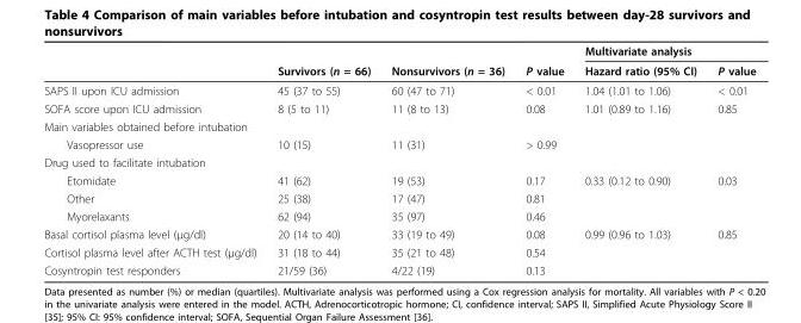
<table><thead><tr><td rowspan="2"></td><td rowspan="2">Survivors (n = 66)</td><td rowspan="2">Nonsurvivors (n = 36)</td><td rowspan="2">P value</td><td colspan="2">Multivariate analysis</td></tr><tr><td>Hazard ratio (95% CI)</td><td>P value</td></tr></thead><tbody><tr><td>SAPS II upon ICU admission</td><td>45 (37 to 55)</td><td>60 (47 to 71)</td><td>&lt; 0.01</td><td>1.04 (1.01 to 1.06)</td><td>&lt; 0.01</td></tr><tr><td>SOFA score upon ICU admission</td><td>8 (5 to 11)</td><td>11 (8 to 13)</td><td>0.08</td><td>1.01 (0.89 to 1.16)</td><td>0.85</td></tr><tr><td colspan="6">Main variables obtained before intubation</td></tr><tr><td>Vasopressor use</td><td>10 (15)</td><td>11 (31)</td><td>&gt; 0.99</td><td></td><td></td></tr><tr><td colspan="6">Drug used to facilitate intubation</td></tr><tr><td>Etomidate</td><td>41 (62)</td><td>19 (53)</td><td>0.17</td><td>0.33 (0.12 to 0.90)</td><td>0.03</td></tr><tr><td>Other</td><td>25 (38)</td><td>17 (47)</td><td>0.81</td><td></td><td></td></tr><tr><td>Myorelaxants</td><td>62 (94)</td><td>35 (97)</td><td>0.46</td><td></td><td></td></tr><tr><td>Basal cortisol plasma level (μg/dl)</td><td>20 (14 to 40)</td><td>33 (19 to 49)</td><td>0.08</td><td>0.99 (0.96 to 1.03)</td><td>0.85</td></tr><tr><td>Cortisol plasma level after ACTH test (μg/dl)</td><td>31 (18 to 44)</td><td>35 (21 to 48)</td><td>0.54</td><td></td><td></td></tr><tr><td>Cosyntropin test responders</td><td>21/59 (36)</td><td>4/22 (19)</td><td>0.13</td><td></td><td></td></tr></tbody></table>